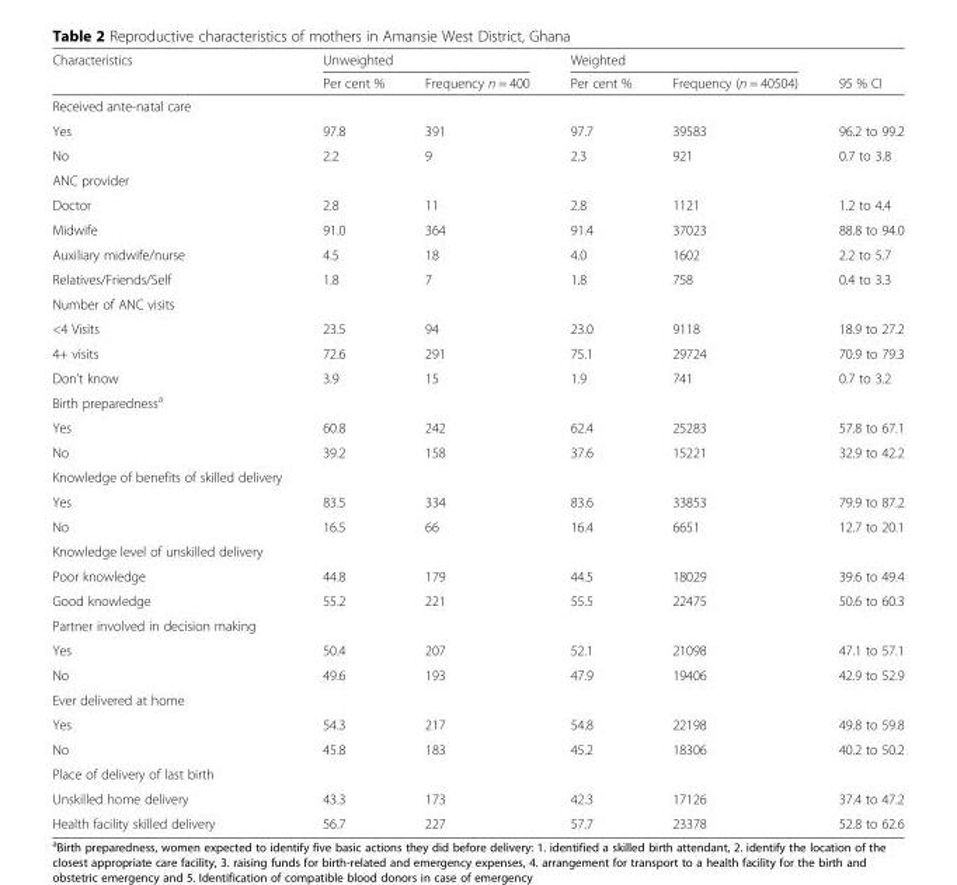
<table><thead><tr><td rowspan="2">Characteristics</td><td colspan="2">Unweighted</td><td colspan="2">Weighted</td><td rowspan="2">95 % CI</td></tr><tr><td>Per cent %</td><td>Frequency n = 400</td><td>Per cent %</td><td>Frequency (n = 40504)</td></tr></thead><tbody><tr><td colspan="6">Received ante-natal care</td></tr><tr><td>Yes</td><td>97.8</td><td>391</td><td>97.7</td><td>39583</td><td>96.2 to 99.2</td></tr><tr><td>No</td><td>2.2</td><td>9</td><td>2.3</td><td>921</td><td>0.7 to 3.8</td></tr><tr><td colspan="6">ANC provider</td></tr><tr><td>Doctor</td><td>2.8</td><td>11</td><td>2.8</td><td>1121</td><td>1.2 to 4.4</td></tr><tr><td>Midwife</td><td>91.0</td><td>364</td><td>91.4</td><td>37023</td><td>88.8 to 94.0</td></tr><tr><td>Auxiliary midwife/nurse</td><td>4.5</td><td>18</td><td>4.0</td><td>1602</td><td>2.2 to 5.7</td></tr><tr><td>Relatives/Friends/Self</td><td>1.8</td><td>7</td><td>1.8</td><td>758</td><td>0.4 to 3.3</td></tr><tr><td colspan="6">Number of ANC visits</td></tr><tr><td>&lt;4 Visits</td><td>23.5</td><td>94</td><td>23.0</td><td>9118</td><td>18.9 to 27.2</td></tr><tr><td>4+ visits</td><td>72.6</td><td>291</td><td>75.1</td><td>29724</td><td>70.9 to 79.3</td></tr><tr><td>Don’t know</td><td>3.9</td><td>15</td><td>1.9</td><td>741</td><td>0.7 to 3.2</td></tr><tr><td colspan="6">Birth preparedness<sup>a</sup></td></tr><tr><td>Yes</td><td>60.8</td><td>242</td><td>62.4</td><td>25283</td><td>57.8 to 67.1</td></tr><tr><td>No</td><td>39.2</td><td>158</td><td>37.6</td><td>15221</td><td>32.9 to 42.2</td></tr><tr><td colspan="6">Knowledge of benefits of skilled delivery</td></tr><tr><td>Yes</td><td>83.5</td><td>334</td><td>83.6</td><td>33853</td><td>79.9 to 87.2</td></tr><tr><td>No</td><td>16.5</td><td>66</td><td>16.4</td><td>6651</td><td>12.7 to 20.1</td></tr><tr><td colspan="6">Knowledge level of unskilled delivery</td></tr><tr><td>Poor knowledge</td><td>44.8</td><td>179</td><td>44.5</td><td>18029</td><td>39.6 to 49.4</td></tr><tr><td>Good knowledge</td><td>55.2</td><td>221</td><td>55.5</td><td>22475</td><td>50.6 to 60.3</td></tr><tr><td colspan="6">Partner involved in decision making</td></tr><tr><td>Yes</td><td>50.4</td><td>207</td><td>52.1</td><td>21098</td><td>47.1 to 57.1</td></tr><tr><td>No</td><td>49.6</td><td>193</td><td>47.9</td><td>19406</td><td>42.9 to 52.9</td></tr><tr><td colspan="6">Ever delivered at home</td></tr><tr><td>Yes</td><td>54.3</td><td>217</td><td>54.8</td><td>22198</td><td>49.8 to 59.8</td></tr><tr><td>No</td><td>45.8</td><td>183</td><td>45.2</td><td>18306</td><td>40.2 to 50.2</td></tr><tr><td colspan="6">Place of delivery of last birth</td></tr><tr><td>Unskilled home delivery</td><td>43.3</td><td>173</td><td>42.3</td><td>17126</td><td>37.4 to 47.2</td></tr><tr><td>Health facility skilled delivery</td><td>56.7</td><td>227</td><td>57.7</td><td>23378</td><td>52.8 to 62.6</td></tr></tbody></table>